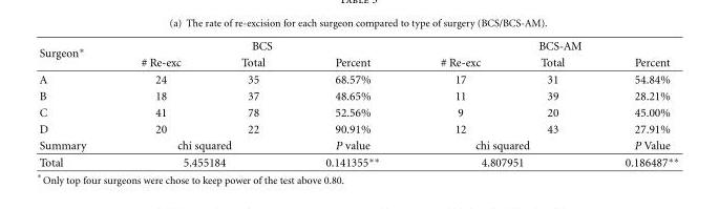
<table><thead><tr><td rowspan="2">Surgeon∗</td><td colspan="3">BCS</td><td colspan="3">BCS-AM</td></tr><tr><td># Re-exc</td><td>Total</td><td>Percent</td><td># Re-exc</td><td>Total</td><td>Percent</td></tr></thead><tbody><tr><td>A</td><td>24</td><td>35</td><td>68.57%</td><td>17</td><td>31</td><td>54.84%</td></tr><tr><td>B</td><td>18</td><td>37</td><td>48.65%</td><td>11</td><td>39</td><td>28.21%</td></tr><tr><td>C</td><td>41</td><td>78</td><td>52.56%</td><td>9</td><td>20</td><td>45.00%</td></tr><tr><td>D</td><td>20</td><td>22</td><td>90.91%</td><td>12</td><td>43</td><td>27.91%</td></tr><tr><td>Summary</td><td colspan="2">chi squared</td><td>P value</td><td colspan="2">chi squared</td><td>P Value</td></tr><tr><td>Total</td><td colspan="2">5.455184</td><td>0.141355∗∗</td><td colspan="2">4.807951</td><td>0.186487∗∗</td></tr></tbody></table>